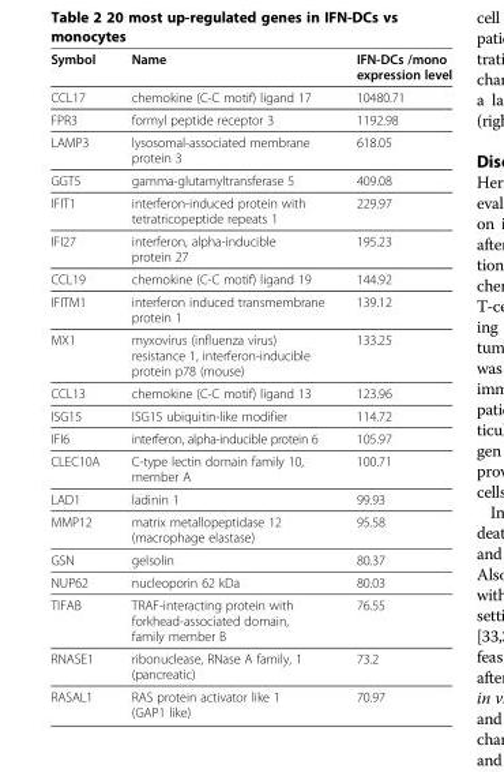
<table><thead><tr><td>Symbol</td><td>Name</td><td>IFN-DCs /mono expression level</td></tr></thead><tbody><tr><td>CCL17</td><td>chemokine (C-C motif) ligand 17</td><td>10480.71</td></tr><tr><td>FPR3</td><td>formyl peptide receptor 3</td><td>1192.98</td></tr><tr><td>LAMP3</td><td>lysosomal-associated membrane protein 3</td><td>618.05</td></tr><tr><td>GGT5</td><td>gamma-glutamyltransferase 5</td><td>409.08</td></tr><tr><td>IFIT1</td><td>interferon-induced protein with tetratricopeptide repeats 1</td><td>229.97</td></tr><tr><td>IFI27</td><td>interferon, alpha-inducible protein 27</td><td>195.23</td></tr><tr><td>CCL19</td><td>chemokine (C-C motif) ligand 19</td><td>144.92</td></tr><tr><td>IFITM1</td><td>interferon induced transmembrane protein 1</td><td>139.12</td></tr><tr><td>MX1</td><td>myxovirus (influenza virus) resistance 1, interferon-inducible protein p78 (mouse)</td><td>133.25</td></tr><tr><td>CCL13</td><td>chemokine (C-C motif) ligand 13</td><td>123.96</td></tr><tr><td>ISG15</td><td>ISG15 ubiquitin-like modifier</td><td>114.72</td></tr><tr><td>IFI6</td><td>interferon, alpha-inducible protein 6</td><td>105.97</td></tr><tr><td>CLEC10A</td><td>C-type lectin domain family 10, member A</td><td>100.71</td></tr><tr><td>LAD1</td><td>ladinin 1</td><td>99.93</td></tr><tr><td>MMP12</td><td>matrix metallopeptidase 12 (macrophage elastase)</td><td>95.58</td></tr><tr><td>GSN</td><td>gelsolin</td><td>80.37</td></tr><tr><td>NUP62</td><td>nucleoporin 62 kDa</td><td>80.03</td></tr><tr><td>TIFAB</td><td>TRAF-interacting protein with forkhead-associated domain, family member B</td><td>76.55</td></tr><tr><td>RNASE1</td><td>ribonuclease, RNase A family, 1 (pancreatic)</td><td>73.2</td></tr><tr><td>RASAL1</td><td>RAS protein activator like 1 (GAP1 like)</td><td>70.97</td></tr></tbody></table>